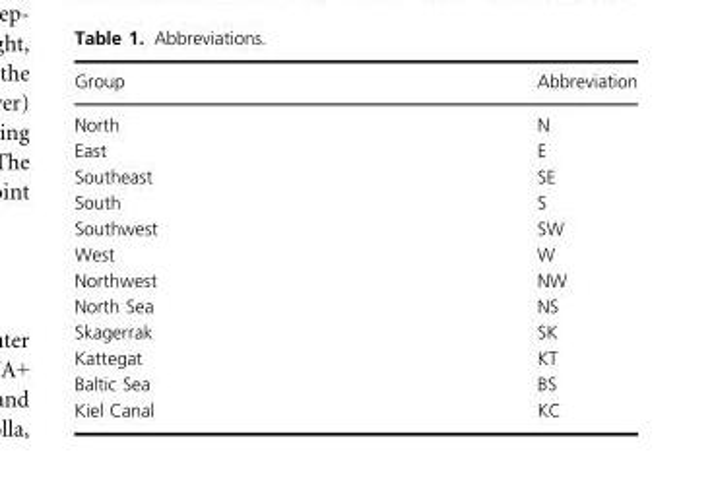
<table><thead><tr><td>Group</td><td>Abbreviation</td></tr></thead><tbody><tr><td>North</td><td>N</td></tr><tr><td>East</td><td>E</td></tr><tr><td>Southeast</td><td>SE</td></tr><tr><td>South</td><td>S</td></tr><tr><td>Southwest</td><td>SW</td></tr><tr><td>West</td><td>W</td></tr><tr><td>Northwest</td><td>NW</td></tr><tr><td>North Sea</td><td>NS</td></tr><tr><td>Skagerrak</td><td>SK</td></tr><tr><td>Kattegat</td><td>KT</td></tr><tr><td>Baltic Sea</td><td>BS</td></tr><tr><td>Kiel Canal</td><td>KC</td></tr></tbody></table>